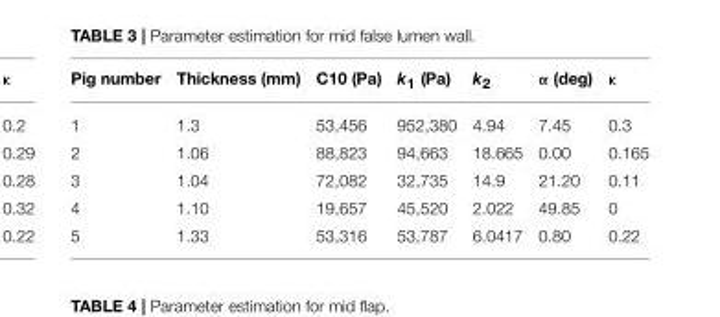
<table><thead><tr><td>Pig number</td><td>Thickness (mm)</td><td>C10 (Pa)</td><td>k<sub>1</sub> (Pa)</td><td>k<sub>2</sub></td><td>α (deg)</td><td>κ</td></tr></thead><tbody><tr><td>1</td><td>1.3</td><td>53,456</td><td>952,380</td><td>4.94</td><td>7.45</td><td>0.3</td></tr><tr><td>2</td><td>1.06</td><td>88,823</td><td>94,663</td><td>18.665</td><td>0.00</td><td>0.165</td></tr><tr><td>3</td><td>1.04</td><td>72,082</td><td>32,735</td><td>14.9</td><td>21.20</td><td>0.11</td></tr><tr><td>4</td><td>1.10</td><td>19,657</td><td>45,520</td><td>2.022</td><td>49.85</td><td>0</td></tr><tr><td>5</td><td>1.33</td><td>53,316</td><td>53,787</td><td>6.0417</td><td>0.80</td><td>0.22</td></tr></tbody></table>